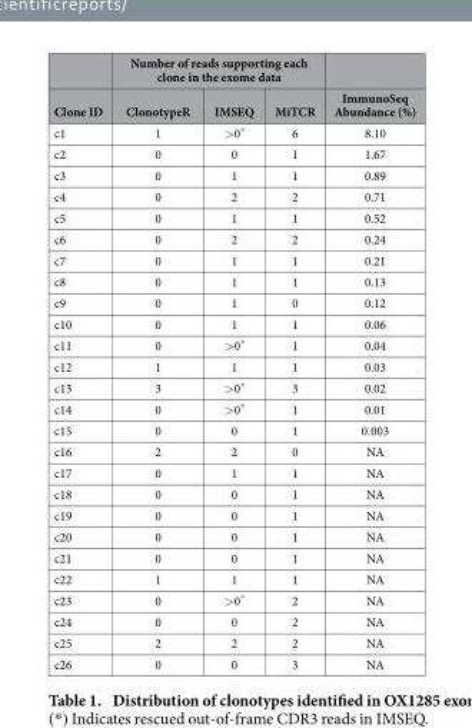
<table><thead><tr><td rowspan="2">Clone ID</td><td colspan="3">Number of reads supporting each clone in the exome data</td><td rowspan="2">ImmunoSeq Abundance (%)</td></tr><tr><td>ClonotypeR</td><td>IMSEQ</td><td>MiTCR</td></tr></thead><tbody><tr><td>c1</td><td>1</td><td>&gt; 0*</td><td>6</td><td>8.10</td></tr><tr><td>c2</td><td>0</td><td>0</td><td>1</td><td>1.67</td></tr><tr><td>c3</td><td>0</td><td>1</td><td>1</td><td>0.89</td></tr><tr><td>c4</td><td>0</td><td>2</td><td>2</td><td>0.71</td></tr><tr><td>c5</td><td>0</td><td>1</td><td>1</td><td>0.52</td></tr><tr><td>c6</td><td>0</td><td>2</td><td>2</td><td>0.24</td></tr><tr><td>c7</td><td>0</td><td>1</td><td>1</td><td>0.21</td></tr><tr><td>c8</td><td>0</td><td>1</td><td>1</td><td>0.13</td></tr><tr><td>c9</td><td>0</td><td>1</td><td>0</td><td>0.12</td></tr><tr><td>c10</td><td>0</td><td>1</td><td>1</td><td>0.06</td></tr><tr><td>c11</td><td>0</td><td>&gt; 0*</td><td>1</td><td>0.04</td></tr><tr><td>c12</td><td>1</td><td>1</td><td>1</td><td>0.03</td></tr><tr><td>c13</td><td>3</td><td>&gt; 0*</td><td>3</td><td>0.02</td></tr><tr><td>c14</td><td>0</td><td>&gt; 0*</td><td>1</td><td>0.01</td></tr><tr><td>c15</td><td>0</td><td>0</td><td>1</td><td>0.003</td></tr><tr><td>c16</td><td>2</td><td>2</td><td>0</td><td>NA</td></tr><tr><td>c17</td><td>0</td><td>1</td><td>1</td><td>NA</td></tr><tr><td>c18</td><td>0</td><td>0</td><td>1</td><td>NA</td></tr><tr><td>c19</td><td>0</td><td>0</td><td>1</td><td>NA</td></tr><tr><td>c20</td><td>0</td><td>0</td><td>1</td><td>NA</td></tr><tr><td>c21</td><td>0</td><td>0</td><td>1</td><td>NA</td></tr><tr><td>c22</td><td>1</td><td>1</td><td>1</td><td>NA</td></tr><tr><td>c23</td><td>0</td><td>&gt; 0*</td><td>2</td><td>NA</td></tr><tr><td>c24</td><td>0</td><td>0</td><td>2</td><td>NA</td></tr><tr><td>c25</td><td>2</td><td>2</td><td>2</td><td>NA</td></tr><tr><td>c26</td><td>0</td><td>0</td><td>3</td><td>NA</td></tr></tbody></table>